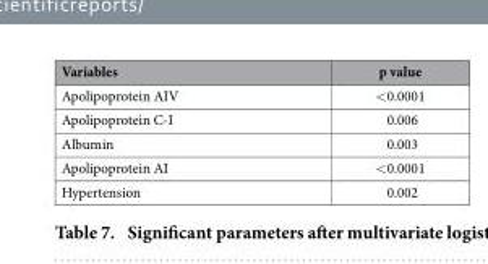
<table><thead><tr><td>Variables</td><td>p value</td></tr></thead><tbody><tr><td>Apolipoprotein AIV</td><td>&lt; 0.0001</td></tr><tr><td>Apolipoprotein C-I</td><td>0.006</td></tr><tr><td>Albumin</td><td>0.003</td></tr><tr><td>Apolipoprotein AI</td><td>&lt; 0.0001</td></tr><tr><td>Hypertension</td><td>0.002</td></tr></tbody></table>